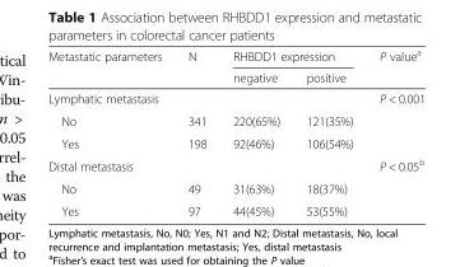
<table><thead><tr><td rowspan="2">Metastatic parameters</td><td rowspan="2">N</td><td colspan="2">RHBDD1 expression</td><td rowspan="2">P value<sup>a</sup></td></tr><tr><td>negative</td><td>positive</td></tr></thead><tbody><tr><td>Lymphatic metastasis</td><td></td><td></td><td></td><td>P &lt; 0.001</td></tr><tr><td>No</td><td>341</td><td>220(65%)</td><td>121(35%)</td><td></td></tr><tr><td>Yes</td><td>198</td><td>92(46%)</td><td>106(54%)</td><td></td></tr><tr><td>Distal metastasis</td><td></td><td></td><td></td><td>P &lt; 0.05<sup>b</sup></td></tr><tr><td>No</td><td>49</td><td>31(63%)</td><td>18(37%)</td><td></td></tr><tr><td>Yes</td><td>97</td><td>44(45%)</td><td>53(55%)</td><td></td></tr></tbody></table>